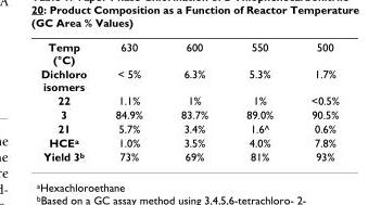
<table><tbody><tr><td>Temp (°C)</td><td>630</td><td>600</td><td>550</td><td>500</td></tr><tr><td>Dichloro isomers</td><td>&lt; 5%</td><td>6.3%</td><td>5.3%</td><td>1.7%</td></tr><tr><td>22</td><td>1.1%</td><td>1%</td><td>1%</td><td>&lt;0.5%</td></tr><tr><td>3</td><td>84.9%</td><td>83.7%</td><td>89.0%</td><td>90.5%</td></tr><tr><td>21</td><td>5.7%</td><td>3.4%</td><td>1.6^</td><td>0.6%</td></tr><tr><td>HCE<sup>a</sup></td><td>1.0%</td><td>3.5%</td><td>4.0%</td><td>7.8%</td></tr><tr><td>Yield 3<sup>b</sup></td><td>73%</td><td>69%</td><td>81%</td><td>93%</td></tr></tbody></table>